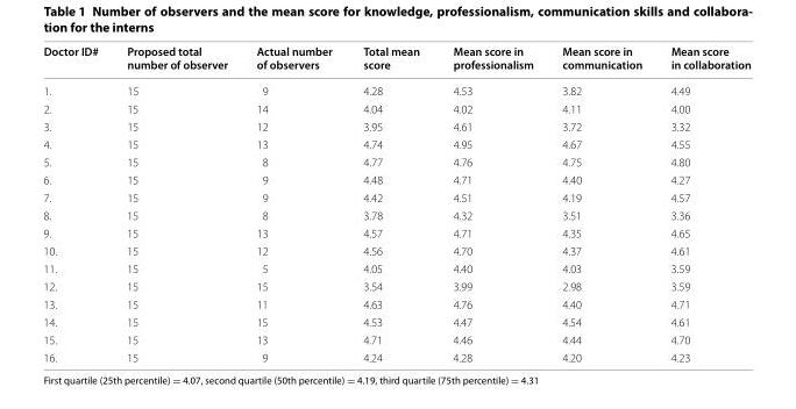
<table><thead><tr><td>Doctor ID#</td><td>Proposed total number of observer</td><td>Actual number of observers</td><td>Total mean score</td><td>Mean score in professionalism</td><td>Mean score in communication</td><td>Mean score in collaboration</td></tr></thead><tbody><tr><td>1.</td><td>15</td><td>9</td><td>4.28</td><td>4.53</td><td>3.82</td><td>4.49</td></tr><tr><td>2.</td><td>15</td><td>14</td><td>4.04</td><td>4.02</td><td>4.11</td><td>4.00</td></tr><tr><td>3.</td><td>15</td><td>12</td><td>3.95</td><td>4.61</td><td>3.72</td><td>3.32</td></tr><tr><td>4.</td><td>15</td><td>13</td><td>4.74</td><td>4.95</td><td>4.67</td><td>4.55</td></tr><tr><td>5.</td><td>15</td><td>8</td><td>4.77</td><td>4.76</td><td>4.75</td><td>4.80</td></tr><tr><td>6.</td><td>15</td><td>9</td><td>4.48</td><td>4.71</td><td>4.40</td><td>4.27</td></tr><tr><td>7.</td><td>15</td><td>9</td><td>4.42</td><td>4.51</td><td>4.19</td><td>4.57</td></tr><tr><td>8.</td><td>15</td><td>8</td><td>3.78</td><td>4.32</td><td>3.51</td><td>3.36</td></tr><tr><td>9.</td><td>15</td><td>13</td><td>4.57</td><td>4.71</td><td>4.35</td><td>4.65</td></tr><tr><td>10.</td><td>15</td><td>12</td><td>4.56</td><td>4.70</td><td>4.37</td><td>4.61</td></tr><tr><td>11.</td><td>15</td><td>5</td><td>4.05</td><td>4.40</td><td>4.03</td><td>3.59</td></tr><tr><td>12.</td><td>15</td><td>15</td><td>3.54</td><td>3.99</td><td>2.98</td><td>3.59</td></tr><tr><td>13.</td><td>15</td><td>11</td><td>4.63</td><td>4.76</td><td>4.40</td><td>4.71</td></tr><tr><td>14.</td><td>15</td><td>15</td><td>4.53</td><td>4.47</td><td>4.54</td><td>4.61</td></tr><tr><td>15.</td><td>15</td><td>13</td><td>4.71</td><td>4.46</td><td>4.44</td><td>4.70</td></tr><tr><td>16.</td><td>15</td><td>9</td><td>4.24</td><td>4.28</td><td>4.20</td><td>4.23</td></tr></tbody></table>